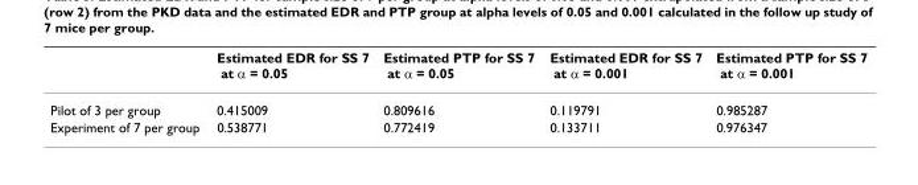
<table><thead><tr><td></td><td>Estimated EDR for SS 7 at α = 0.05</td><td>Estimated PTP for SS 7 at α = 0.05</td><td>Estimated EDR for SS 7 at α = 0.001</td><td>Estimated PTP for SS 7 at α = 0.001</td></tr></thead><tbody><tr><td>Pilot of 3 per group</td><td>0.415009</td><td>0.809616</td><td>0.119791</td><td>0.985287</td></tr><tr><td>Experiment of 7 per group</td><td>0.538771</td><td>0.772419</td><td>0.133711</td><td>0.976347</td></tr></tbody></table>